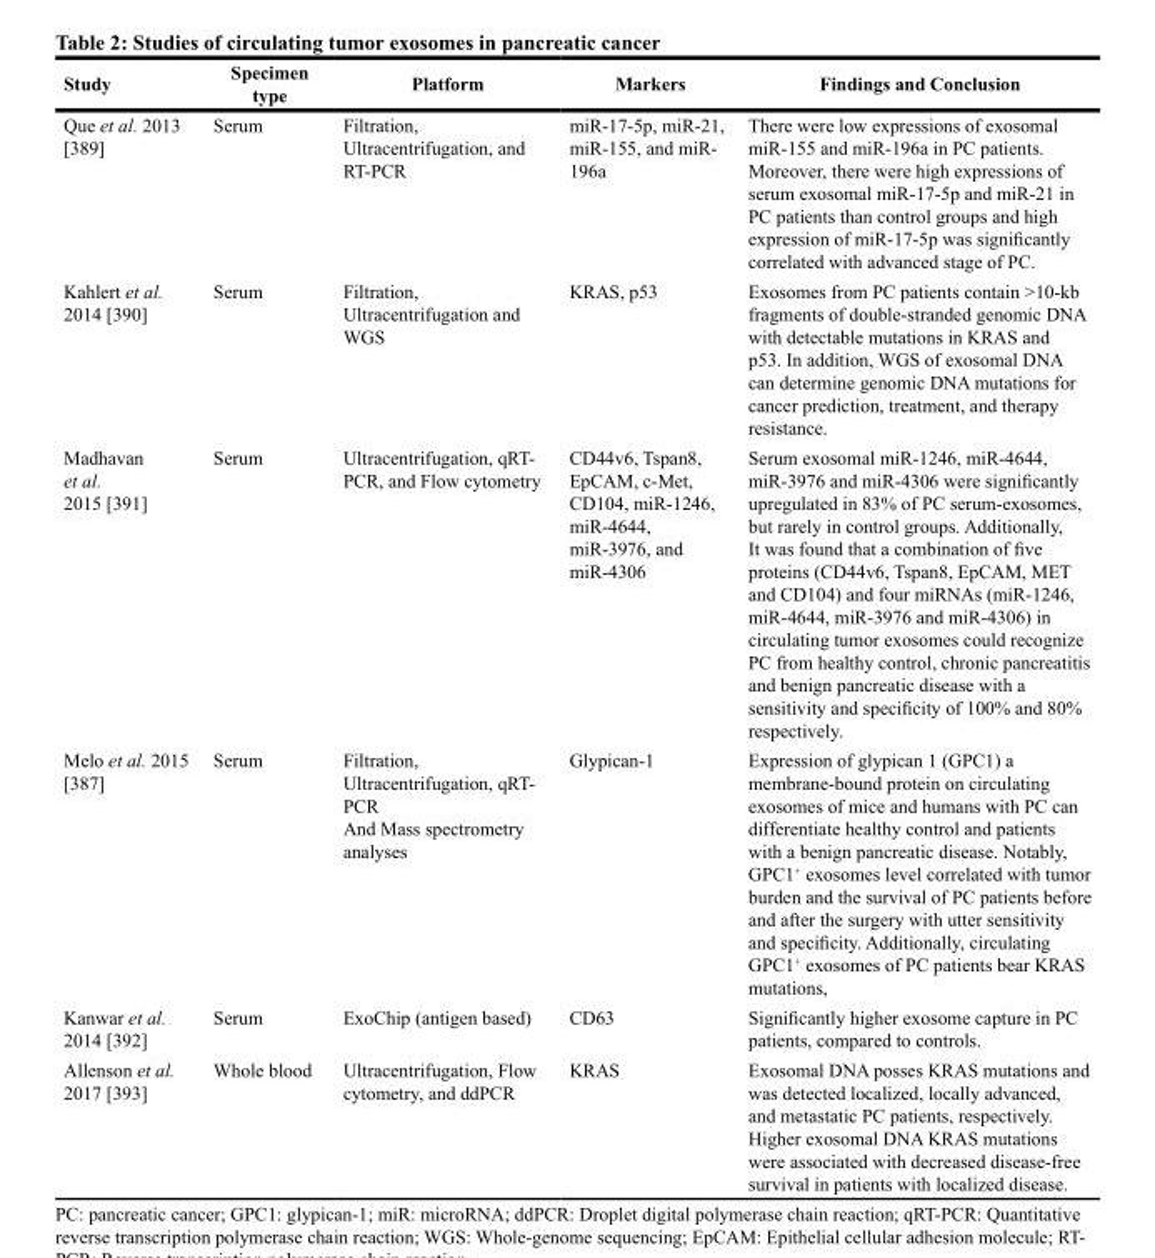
<table><thead><tr><td>Study</td><td>Specimen type</td><td>Platform</td><td>Markers</td><td>Findings and Conclusion</td></tr></thead><tbody><tr><td>Que et al. 2013 [389]</td><td>Serum</td><td>Filtration, Ultracentrifugation, and RT-PCR</td><td>miR-17-5p, miR-21, miR-155, and miR- 196a</td><td>There were low expressions of exosomal miR-155 and miR-196a in PC patients. Moreover, there were high expressions of serum exosomal miR-17-5p and miR-21 in PC patients than control groups and high expression of miR-17-5p was significantly correlated with advanced stage of PC.</td></tr><tr><td>Kahlert et al. 2014 [390]</td><td>Serum</td><td>Filtration, Ultracentrifugation and WGS</td><td>KRAS, p53</td><td>Exosomes from PC patients contain &gt;10-kb fragments of double-stranded genomic DNA with detectable mutations in KRAS and p53. In addition, WGS of exosomal DNA can determine genomic DNA mutations for cancer prediction, treatment, and therapy resistance.</td></tr><tr><td>Madhavan et al. 2015 [391]</td><td>Serum</td><td>Ultracentrifugation, qRT- PCR, and Flow cytometry</td><td>CD44v6, Tspan8, EpCAM, c-Met, CD104, miR-1246, miR-4644, miR-3976, and miR-4306</td><td>Serum exosomal miR-1246, miR-4644, miR-3976 and miR-4306 were significantly upregulated in 83% of PC serum-exosomes, but rarely in control groups. Additionally, It was found that a combination of five proteins (CD44v6, Tspan8, EpCAM, MET and CD104) and four miRNAs (miR-1246, miR-4644, miR-3976 and miR-4306) in circulating tumor exosomes could recognize PC from healthy control, chronic pancreatitis and benign pancreatic disease with a sensitivity and specificity of 100% and 80% respectively.</td></tr><tr><td>Melo et al. 2015 [387]</td><td>Serum</td><td>Filtration, Ultracentrifugation, qRT- PCR And Mass spectrometry analyses</td><td>Glypican-1</td><td>Expression of glypican 1 (GPC1) a membrane-bound protein on circulating exosomes of mice and humans with PC can differentiate healthy control and patients with a benign pancreatic disease. Notably, GPC1<sup>+</sup> exosomes level correlated with tumor burden and the survival of PC patients before and after the surgery with utter sensitivity and specificity. Additionally, circulating GPC1<sup>+</sup> exosomes of PC patients bear KRAS mutations,</td></tr><tr><td>Kanwar et al. 2014 [392]</td><td>Serum</td><td>ExoChip (antigen based)</td><td>CD63</td><td>Significantly higher exosome capture in PC patients, compared to controls.</td></tr><tr><td>Allenson et al. 2017 [393]</td><td>Whole blood</td><td>Ultracentrifugation, Flow cytometry, and ddPCR</td><td>KRAS</td><td>Exosomal DNA posses KRAS mutations and was detected localized, locally advanced, and metastatic PC patients, respectively. Higher exosomal DNA KRAS mutations were associated with decreased disease-free survival in patients with localized disease.</td></tr></tbody></table>